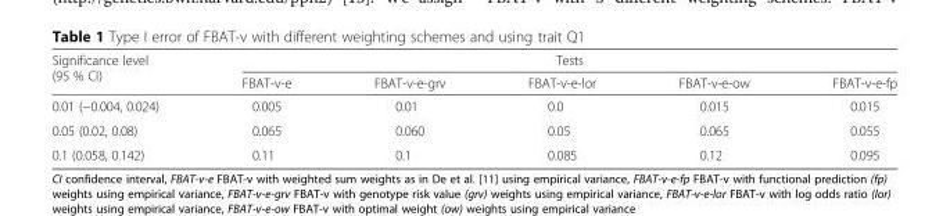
<table><thead><tr><td rowspan="2">Significance level (95 % CI)</td><td colspan="5">Tests</td></tr><tr><td>FBAT-v-e</td><td>FBAT-v-e-grv</td><td>FBAT-v-e-lor</td><td>FBAT-v-e-ow</td><td>FBAT-v-e-fp</td></tr></thead><tbody><tr><td>0.01 (−0.004, 0.024)</td><td>0.005</td><td>0.01</td><td>0.0</td><td>0.015</td><td>0.015</td></tr><tr><td>0.05 (0.02, 0.08)</td><td>0.065</td><td>0.060</td><td>0.05</td><td>0.065</td><td>0.055</td></tr><tr><td>0.1 (0.058, 0.142)</td><td>0.11</td><td>0.1</td><td>0.085</td><td>0.12</td><td>0.095</td></tr></tbody></table>